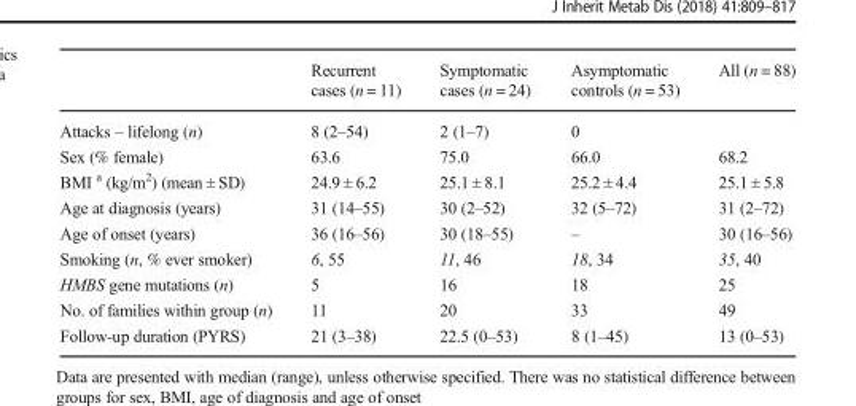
<table><thead><tr><td></td><td>Recurrent cases (n = 11)</td><td>Symptomatic cases (n = 24)</td><td>Asymptomatic controls (n = 53)</td><td>All (n = 88)</td></tr></thead><tbody><tr><td>Attacks – lifelong (n)</td><td>8 (2–54)</td><td>2 (1–7)</td><td>0</td><td></td></tr><tr><td>Sex (% female)</td><td>63.6</td><td>75.0</td><td>66.0</td><td>68.2</td></tr><tr><td>BMI <sup>a</sup> (kg/m<sup>2</sup>) (mean ± SD)</td><td>24.9 ± 6.2</td><td>25.1 ± 8.1</td><td>25.2 ± 4.4</td><td>25.1 ± 5.8</td></tr><tr><td>Age at diagnosis (years)</td><td>31 (14–55)</td><td>30 (2–52)</td><td>32 (5–72)</td><td>31 (2–72)</td></tr><tr><td>Age of onset (years)</td><td>36 (16–56)</td><td>30 (18–55)</td><td>–</td><td>30 (16–56)</td></tr><tr><td>Smoking (n, % ever smoker)</td><td>6, 55</td><td>11, 46</td><td>18, 34</td><td>35, 40</td></tr><tr><td>HMBS gene mutations (n)</td><td>5</td><td>16</td><td>18</td><td>25</td></tr><tr><td>No. of families within group (n)</td><td>11</td><td>20</td><td>33</td><td>49</td></tr><tr><td>Follow-up duration (PYRS)</td><td>21 (3–38)</td><td>22.5 (0–53)</td><td>8 (1–45)</td><td>13 (0–53)</td></tr></tbody></table>